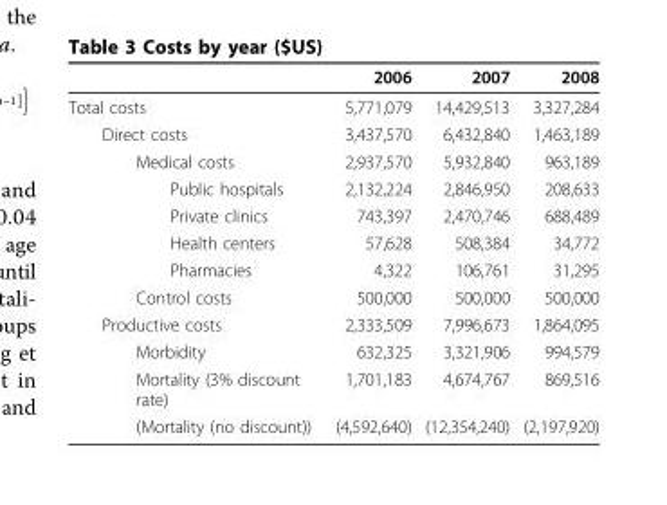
<table><thead><tr><td></td><td>2006</td><td>2007</td><td>2008</td></tr></thead><tbody><tr><td>Total costs</td><td>5,771,079</td><td>14,429,513</td><td>3,327,284</td></tr><tr><td>Direct costs</td><td>3,437,570</td><td>6,432,840</td><td>1,463,189</td></tr><tr><td>Medical costs</td><td>2,937,570</td><td>5,932,840</td><td>963,189</td></tr><tr><td>Public hospitals</td><td>2,132,224</td><td>2,846,950</td><td>208,633</td></tr><tr><td>Private clinics</td><td>743,397</td><td>2,470,746</td><td>688,489</td></tr><tr><td>Health centers</td><td>57,628</td><td>508,384</td><td>34,772</td></tr><tr><td>Pharmacies</td><td>4,322</td><td>106,761</td><td>31,295</td></tr><tr><td>Control costs</td><td>500,000</td><td>500,000</td><td>500,000</td></tr><tr><td>Productive costs</td><td>2,333,509</td><td>7,996,673</td><td>1,864,095</td></tr><tr><td>Morbidity</td><td>632,325</td><td>3,321,906</td><td>994,579</td></tr><tr><td>Mortality (3% discount rate)</td><td>1,701,183</td><td>4,674,767</td><td>869,516</td></tr><tr><td>(Mortality (no discount))</td><td>(4,592,640)</td><td>(12,354,240)</td><td>(2,197,920)</td></tr></tbody></table>